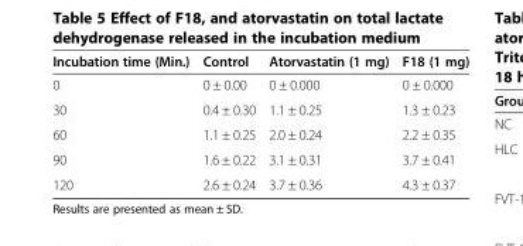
<table><thead><tr><td>Incubation time (Min.)</td><td>Control</td><td>Atorvastatin (1 mg)</td><td>F18 (1 mg)</td></tr></thead><tbody><tr><td>0</td><td>0 ± 0.00</td><td>0 ± 0.000</td><td>0 ± 0.000</td></tr><tr><td>30</td><td>0.4 ± 0.30</td><td>1.1 ± 0.25</td><td>1.3 ± 0.23</td></tr><tr><td>60</td><td>1.1 ± 0.25</td><td>2.0 ± 0.24</td><td>2.2 ± 0.35</td></tr><tr><td>90</td><td>1.6 ± 0.22</td><td>3.1 ± 0.31</td><td>3.7 ± 0.41</td></tr><tr><td>120</td><td>2.6 ± 0.24</td><td>3.7 ± 0.36</td><td>4.3 ± 0.37</td></tr></tbody></table>